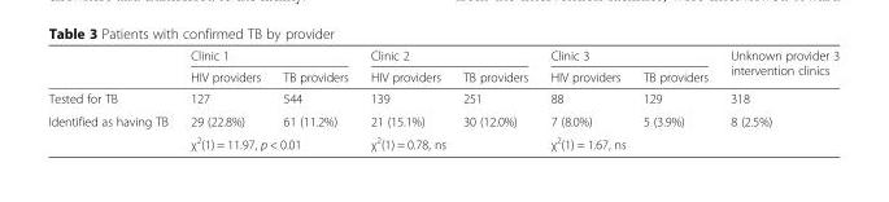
<table><thead><tr><td rowspan="2"></td><td colspan="2">Clinic 1</td><td colspan="2">Clinic 2</td><td colspan="2">Clinic 3</td><td rowspan="2">Unknown provider 3 intervention clinics</td></tr><tr><td>HIV providers</td><td>TB providers</td><td>HIV providers</td><td>TB providers</td><td>HIV providers</td><td>TB providers</td></tr></thead><tbody><tr><td>Tested for TB</td><td>127</td><td>544</td><td>139</td><td>251</td><td>88</td><td>129</td><td>318</td></tr><tr><td rowspan="2">Identified as having TB</td><td>29 (22.8%)</td><td>61 (11.2%)</td><td>21 (15.1%)</td><td>30 (12.0%)</td><td>7 (8.0%)</td><td>5 (3.9%)</td><td>8 (2.5%)</td></tr><tr><td colspan="2">χ<sup>2</sup>(1) = 11.97, p &lt; 0.01</td><td colspan="2">χ<sup>2</sup>(1) = 0.78, ns</td><td colspan="2">χ<sup>2</sup>(1) = 1.67, ns</td><td></td></tr></tbody></table>